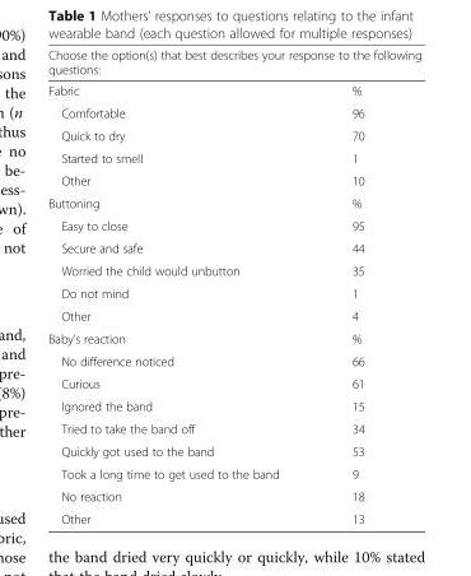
<table><thead><tr><td colspan="2">Choose the option(s) that best describes your response to the following questions:</td></tr><tr><td>Fabric</td><td>%</td></tr></thead><tbody><tr><td>Comfortable</td><td>96</td></tr><tr><td>Quick to dry</td><td>70</td></tr><tr><td>Started to smell</td><td>1</td></tr><tr><td>Other</td><td>10</td></tr><tr><td>Buttoning</td><td>%</td></tr><tr><td>Easy to close</td><td>95</td></tr><tr><td>Secure and safe</td><td>44</td></tr><tr><td>Worried the child would unbutton</td><td>35</td></tr><tr><td>Do not mind</td><td>1</td></tr><tr><td>Other</td><td>4</td></tr><tr><td>Baby’s reaction</td><td>%</td></tr><tr><td>No difference noticed</td><td>66</td></tr><tr><td>Curious</td><td>61</td></tr><tr><td>Ignored the band</td><td>15</td></tr><tr><td>Tried to take the band off</td><td>34</td></tr><tr><td>Quickly got used to the band</td><td>53</td></tr><tr><td>Took a long time to get used to the band</td><td>9</td></tr><tr><td>No reaction</td><td>18</td></tr><tr><td>Other</td><td>13</td></tr></tbody></table>